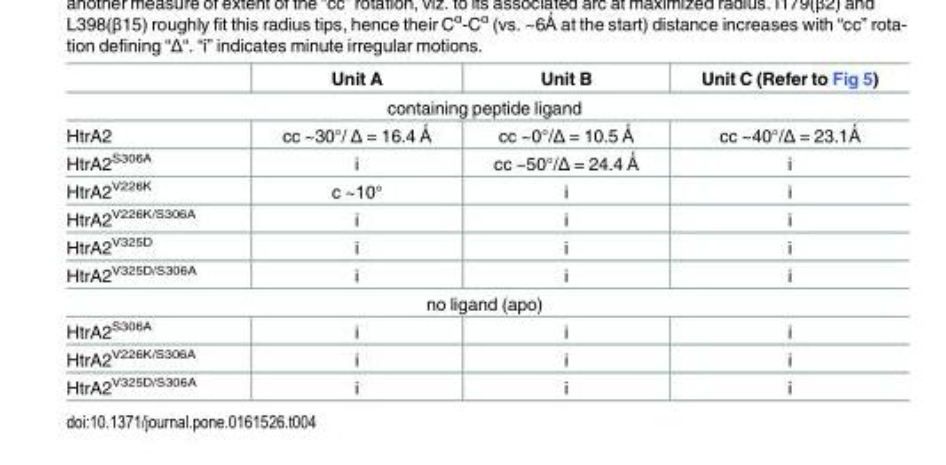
<table><thead><tr><td></td><td>Unit A</td><td>Unit B</td><td>Unit C (Refer to Fig 5)</td></tr></thead><tbody><tr><td colspan="4">containing peptide ligand</td></tr><tr><td>HtrA2</td><td>cc ~30°/ Δ = 16.4 Ǻ</td><td>cc ~0°/Δ = 10.5 Ǻ</td><td>cc ~40°/Δ = 23.1Ǻ</td></tr><tr><td>HtrA2<sup>S306A</sup></td><td>i</td><td>cc ~50°/Δ = 24.4 Ǻ</td><td>i</td></tr><tr><td>HtrA2<sup>V226K</sup></td><td>c ~10°</td><td>i</td><td>i</td></tr><tr><td>HtrA2<sup>V226K/S306A</sup></td><td>i</td><td>i</td><td>i</td></tr><tr><td>HtrA2<sup>V325D</sup></td><td>i</td><td>i</td><td>i</td></tr><tr><td>HtrA2<sup>V325D/S306A</sup></td><td>i</td><td>i</td><td>i</td></tr><tr><td colspan="4">no ligand (apo)</td></tr><tr><td>HtrA2<sup>S306A</sup></td><td>i</td><td>i</td><td>i</td></tr><tr><td>HtrA2<sup>V226K/S306A</sup></td><td>i</td><td>i</td><td>i</td></tr><tr><td>HtrA2<sup>V325D/S306A</sup></td><td>i</td><td>i</td><td>i</td></tr></tbody></table>